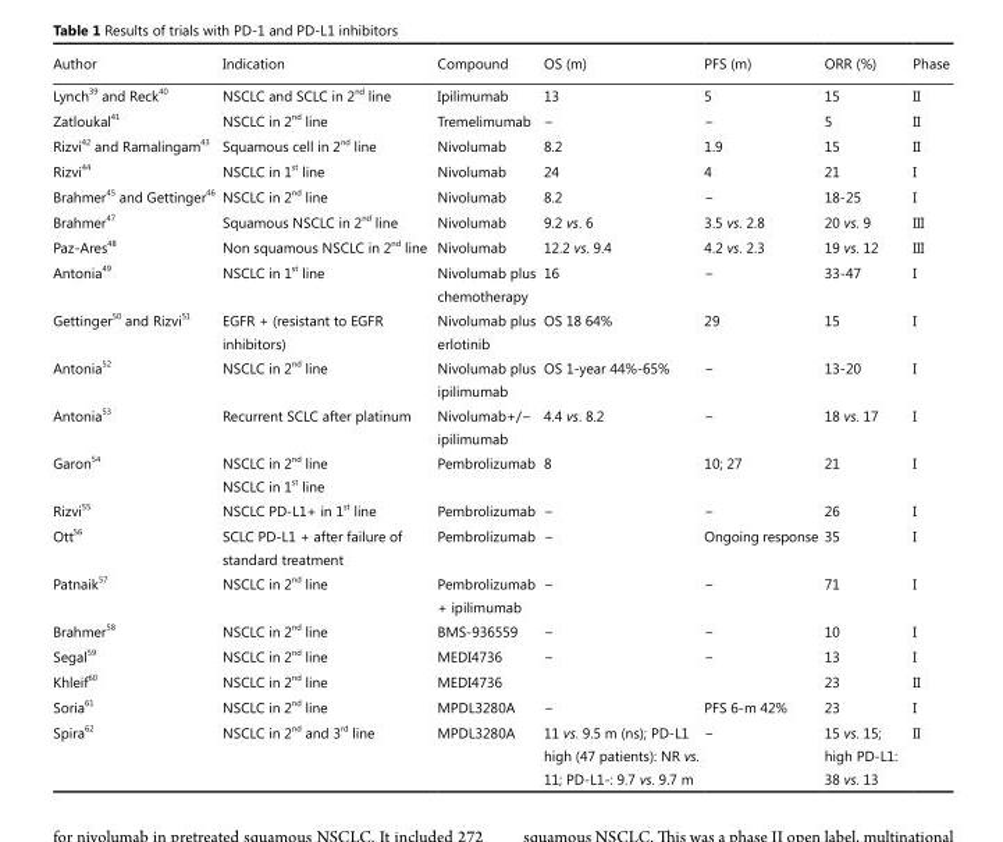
<table><thead><tr><td>Author</td><td>Indication</td><td>Compound</td><td>OS (m)</td><td>PFS (m)</td><td>ORR (%)</td><td>Phase</td></tr></thead><tbody><tr><td>Lynch <sup>39</sup> and Reck <sup>40</sup></td><td>NSCLC and SCLC in 2 <sup>nd</sup> line</td><td>Ipilimumab</td><td>13</td><td>5</td><td>15</td><td>II</td></tr><tr><td>Zatloukal <sup>41</sup></td><td>NSCLC in 2 <sup>nd</sup> line</td><td>Tremelimumab</td><td>−</td><td>−</td><td>5</td><td>II</td></tr><tr><td>Rizvi <sup>42</sup> and Ramalingam <sup>43</sup></td><td>Squamous cell in 2 <sup>nd</sup> line</td><td>Nivolumab</td><td>8.2</td><td>1.9</td><td>15</td><td>II</td></tr><tr><td>Rizvi <sup>44</sup></td><td>NSCLC in 1 <sup>st</sup> line</td><td>Nivolumab</td><td>24</td><td>4</td><td>21</td><td>I</td></tr><tr><td>Brahmer <sup>45</sup> and Gettinger <sup>46</sup></td><td>NSCLC in 2 <sup>nd</sup> line</td><td>Nivolumab</td><td>8.2</td><td>−</td><td>18-25</td><td>I</td></tr><tr><td>Brahmer <sup>47</sup></td><td>Squamous NSCLC in 2 <sup>nd</sup> line</td><td>Nivolumab</td><td>9.2 vs. 6</td><td>3.5 vs. 2.8</td><td>20 vs. 9</td><td>III</td></tr><tr><td>Paz-Ares <sup>48</sup></td><td>Non squamous NSCLC in 2 <sup>nd</sup> line</td><td>Nivolumab</td><td>12.2 vs. 9.4</td><td>4.2 vs. 2.3</td><td>19 vs. 12</td><td>III</td></tr><tr><td>Antonia <sup>49</sup></td><td>NSCLC in 1 <sup>st</sup> line</td><td>Nivolumab plus chemotherapy</td><td>16</td><td>−</td><td>33-47</td><td>I</td></tr><tr><td>Gettinger <sup>50</sup> and Rizvi <sup>51</sup></td><td>EGFR + (resistant to EGFR inhibitors)</td><td>Nivolumab plus erlotinib</td><td>OS 18 64%</td><td>29</td><td>15</td><td>I</td></tr><tr><td>Antonia <sup>52</sup></td><td>NSCLC in 2 <sup>nd</sup> line</td><td>Nivolumab plus ipilimumab</td><td>OS 1-year 44%-65%</td><td>−</td><td>13-20</td><td>I</td></tr><tr><td>Antonia <sup>53</sup></td><td>Recurrent SCLC after platinum</td><td>Nivolumab+/− ipilimumab</td><td>4.4 vs. 8.2</td><td>−</td><td>18 vs. 17</td><td>I</td></tr><tr><td>Garon <sup>54</sup></td><td>NSCLC in 2 <sup>nd</sup> line NSCLC in 1 <sup>st</sup> line</td><td>Pembrolizumab</td><td>8</td><td>10; 27</td><td>21</td><td>I</td></tr><tr><td>Rizvi <sup>55</sup></td><td>NSCLC PD-L1+ in 1 <sup>st</sup> line</td><td>Pembrolizumab</td><td>−</td><td>−</td><td>26</td><td>I</td></tr><tr><td>Ott <sup>56</sup></td><td>SCLC PD-L1 + after failure of standard treatment</td><td>Pembrolizumab</td><td>−</td><td>Ongoing response</td><td>35</td><td>I</td></tr><tr><td>Patnaik <sup>57</sup></td><td>NSCLC in 2 <sup>nd</sup> line</td><td>Pembrolizumab + ipilimumab</td><td>−</td><td>−</td><td>71</td><td>I</td></tr><tr><td>Brahmer <sup>58</sup></td><td>NSCLC in 2 <sup>nd</sup> line</td><td>BMS-936559</td><td>−</td><td>−</td><td>10</td><td>I</td></tr><tr><td>Segal <sup>59</sup></td><td>NSCLC in 2 <sup>nd</sup> line</td><td>MEDI4736</td><td>−</td><td>−</td><td>13</td><td>I</td></tr><tr><td>Khleif <sup>60</sup></td><td>NSCLC in 2 <sup>nd</sup> line</td><td>MEDI4736</td><td></td><td></td><td>23</td><td>II</td></tr><tr><td>Soria <sup>61</sup></td><td>NSCLC in 2 <sup>nd</sup> line</td><td>MPDL3280A</td><td>−</td><td>PFS 6-m 42%</td><td>23</td><td>I</td></tr><tr><td>Spira <sup>62</sup></td><td>NSCLC in 2 <sup>nd</sup> and 3 <sup>rd</sup> line</td><td>MPDL3280A</td><td>11 vs. 9.5 m (ns); PD-L1 high (47 patients): NR vs. 11; PD-L1-: 9.7 vs. 9.7 m</td><td>−</td><td>15 vs. 15; high PD-L1: 38 vs. 13</td><td>II</td></tr></tbody></table>